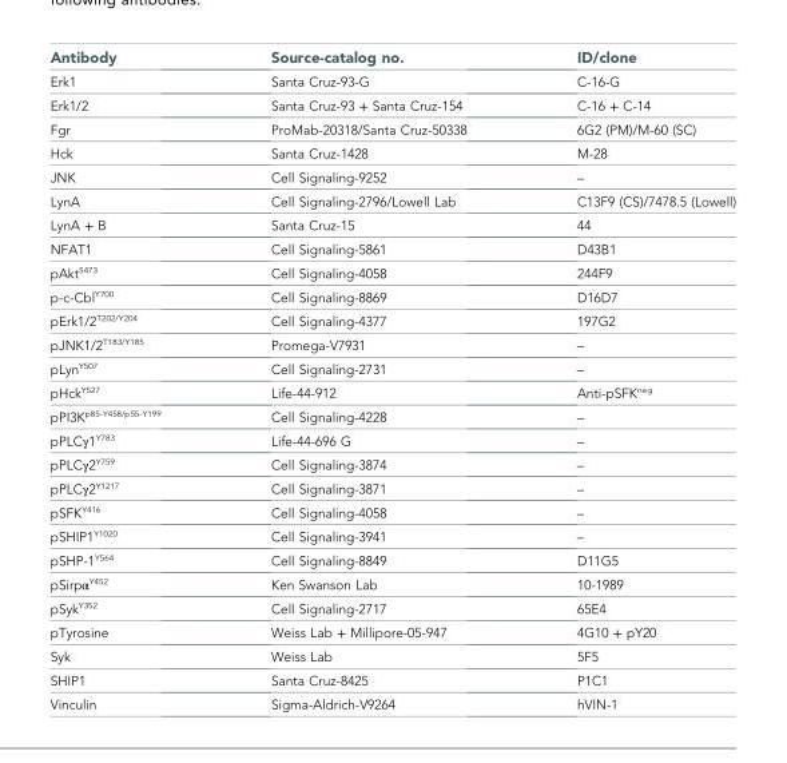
<table><thead><tr><td>Antibody</td><td>Source-catalog no.</td><td>ID/clone</td></tr></thead><tbody><tr><td>Erk1</td><td>Santa Cruz-93-G</td><td>C-16-G</td></tr><tr><td>Erk1/2</td><td>Santa Cruz-93 + Santa Cruz-154</td><td>C-16 + C-14</td></tr><tr><td>Fgr</td><td>ProMab-20318/Santa Cruz-50338</td><td>6G2 (PM)/M-60 (SC)</td></tr><tr><td>Hck</td><td>Santa Cruz-1428</td><td>M-28</td></tr><tr><td>JNK</td><td>Cell Signaling-9252</td><td>–</td></tr><tr><td>LynA</td><td>Cell Signaling-2796/Lowell Lab</td><td>C13F9 (CS)/7478.5 (Lowell)</td></tr><tr><td>LynA + B</td><td>Santa Cruz-15</td><td>44</td></tr><tr><td>NFAT1</td><td>Cell Signaling-5861</td><td>D43B1</td></tr><tr><td>pAkt<sup>S473</sup></td><td>Cell Signaling-4058</td><td>244F9</td></tr><tr><td>p-c-Cbl<sup>Y700</sup></td><td>Cell Signaling-8869</td><td>D16D7</td></tr><tr><td>pErk1/2<sup>T202/Y204</sup></td><td>Cell Signaling-4377</td><td>197G2</td></tr><tr><td>pJNK1/2<sup>T183/Y185</sup></td><td>Promega-V7931</td><td>–</td></tr><tr><td>pLyn<sup>Y507</sup></td><td>Cell Signaling-2731</td><td>–</td></tr><tr><td>pHck<sup>Y527</sup></td><td>Life-44-912</td><td>Anti-pSFK<sup>neg</sup></td></tr><tr><td>pPI3K<sup>p85-Y458/p55-Y199</sup></td><td>Cell Signaling-4228</td><td>–</td></tr><tr><td>pPLCγ1<sup>Y783</sup></td><td>Life-44-696 G</td><td>–</td></tr><tr><td>pPLCγ2<sup>Y759</sup></td><td>Cell Signaling-3874</td><td>–</td></tr><tr><td>pPLCγ2<sup>Y1217</sup></td><td>Cell Signaling-3871</td><td>–</td></tr><tr><td>pSFK<sup>Y416</sup></td><td>Cell Signaling-4058</td><td>–</td></tr><tr><td>pSHIP1<sup>Y1020</sup></td><td>Cell Signaling-3941</td><td>–</td></tr><tr><td>pSHP-1<sup>Y564</sup></td><td>Cell Signaling-8849</td><td>D11G5</td></tr><tr><td>pSirpα<sup>Y452</sup></td><td>Ken Swanson Lab</td><td>10-1989</td></tr><tr><td>pSyk<sup>Y352</sup></td><td>Cell Signaling-2717</td><td>65E4</td></tr><tr><td>pTyrosine</td><td>Weiss Lab + Millipore-05-947</td><td>4G10 + pY20</td></tr><tr><td>Syk</td><td>Weiss Lab</td><td>5F5</td></tr><tr><td>SHIP1</td><td>Santa Cruz-8425</td><td>P1C1</td></tr><tr><td>Vinculin</td><td>Sigma-Aldrich-V9264</td><td>hVIN-1</td></tr></tbody></table>